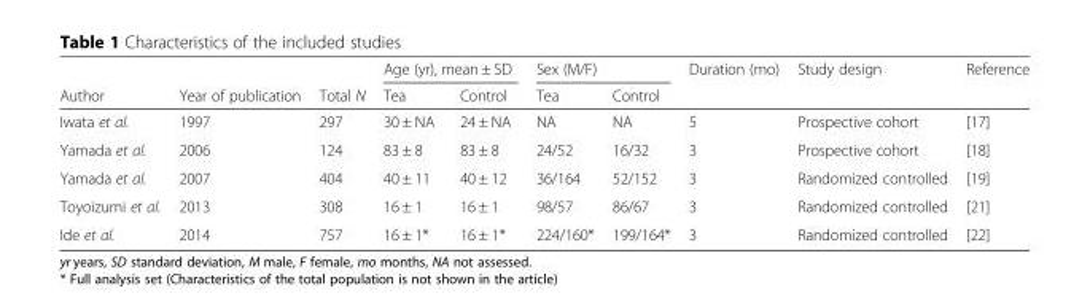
<table><thead><tr><td rowspan="2">Author</td><td rowspan="2">Year of publication</td><td rowspan="2">Total N</td><td colspan="2">Age (yr), mean ± SD</td><td colspan="2">Sex (M/F)</td><td rowspan="2">Duration (mo)</td><td rowspan="2">Study design</td><td rowspan="2">Reference</td></tr><tr><td>Tea</td><td>Control</td><td>Tea</td><td>Control</td></tr></thead><tbody><tr><td>Iwata et al.</td><td>1997</td><td>297</td><td>30 ± NA</td><td>24 ± NA</td><td>NA</td><td>NA</td><td>5</td><td>Prospective cohort</td><td>[17]</td></tr><tr><td>Yamada et al.</td><td>2006</td><td>124</td><td>83 ± 8</td><td>83 ± 8</td><td>24/52</td><td>16/32</td><td>3</td><td>Prospective cohort</td><td>[18]</td></tr><tr><td>Yamada et al.</td><td>2007</td><td>404</td><td>40 ± 11</td><td>40 ± 12</td><td>36/164</td><td>52/152</td><td>3</td><td>Randomized controlled</td><td>[19]</td></tr><tr><td>Toyoizumi et al.</td><td>2013</td><td>308</td><td>16 ± 1</td><td>16 ± 1</td><td>98/57</td><td>86/67</td><td>3</td><td>Randomized controlled</td><td>[21]</td></tr><tr><td>Ide et al.</td><td>2014</td><td>757</td><td>16 ± 1*</td><td>16 ± 1*</td><td>224/160*</td><td>199/164*</td><td>3</td><td>Randomized controlled</td><td>[22]</td></tr></tbody></table>